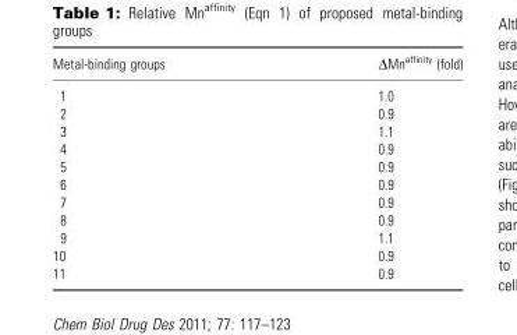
<table><thead><tr><td>Metal-binding groups</td><td>ΔMn<sup>affinity</sup> (fold)</td></tr></thead><tbody><tr><td>1</td><td>1.0</td></tr><tr><td>2</td><td>0.9</td></tr><tr><td>3</td><td>1.1</td></tr><tr><td>4</td><td>0.9</td></tr><tr><td>5</td><td>0.9</td></tr><tr><td>6</td><td>0.9</td></tr><tr><td>7</td><td>0.9</td></tr><tr><td>8</td><td>0.9</td></tr><tr><td>9</td><td>1.1</td></tr><tr><td>10</td><td>0.9</td></tr><tr><td>11</td><td>0.9</td></tr></tbody></table>